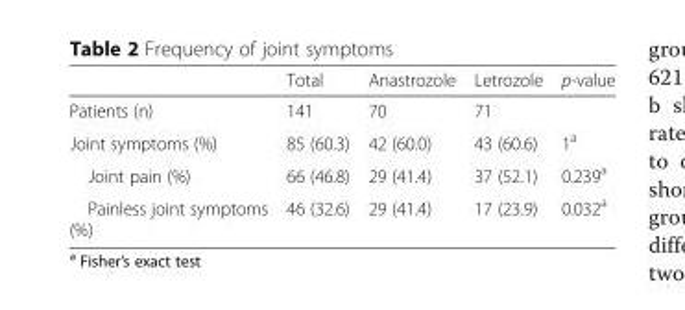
<table><thead><tr><td></td><td>Total</td><td>Anastrozole</td><td>Letrozole</td><td>p-value</td></tr></thead><tbody><tr><td>Patients (n)</td><td>141</td><td>70</td><td>71</td><td></td></tr><tr><td>Joint symptoms (%)</td><td>85 (60.3)</td><td>42 (60.0)</td><td>43 (60.6)</td><td>1<sup>a</sup></td></tr><tr><td>Joint pain (%)</td><td>66 (46.8)</td><td>29 (41.4)</td><td>37 (52.1)</td><td>0.239<sup>a</sup></td></tr><tr><td>Painless joint symptoms (%)</td><td>46 (32.6)</td><td>29 (41.4)</td><td>17 (23.9)</td><td>0.032<sup>a</sup></td></tr></tbody></table>